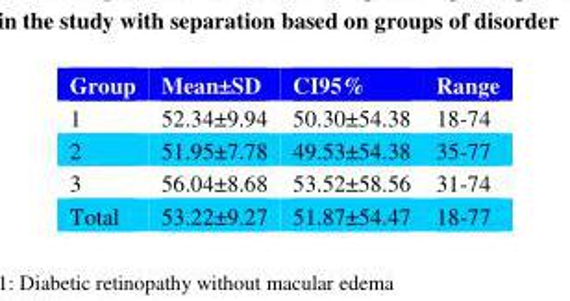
<table><thead><tr><td>Group</td><td>Mean±SD</td><td>CI95%</td><td>Range</td></tr></thead><tbody><tr><td>1</td><td>52.34±9.94</td><td>50.30±54.38</td><td>18-74</td></tr><tr><td>2</td><td>51.95±7.78</td><td>49.53±54.38</td><td>35-77</td></tr><tr><td>3</td><td>56.04±8.68</td><td>53.52±58.56</td><td>31-74</td></tr><tr><td>Total</td><td>53.22±9.27</td><td>51.87±54.47</td><td>18-77</td></tr></tbody></table>